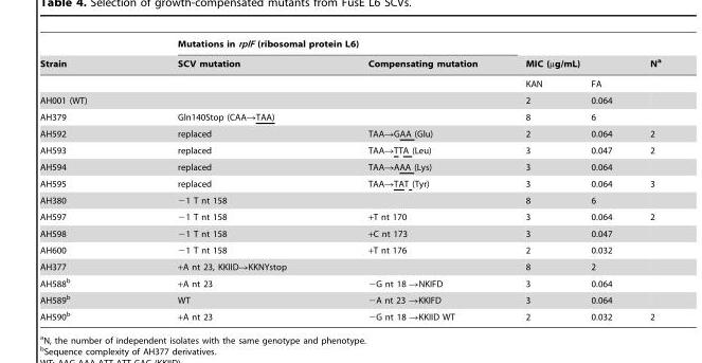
<table><thead><tr><td rowspan="2">Strain</td><td colspan="2">Mutations in rplF (ribosomal protein L6)</td><td></td><td></td><td rowspan="2">N<sup>a</sup></td></tr><tr><td>SCV mutation</td><td>Compensating mutation</td><td colspan="2">MIC (µg/mL)</td></tr></thead><tbody><tr><td></td><td></td><td></td><td>KAN</td><td>FA</td><td></td></tr><tr><td>AH001 (WT)</td><td></td><td></td><td>2</td><td>0.064</td><td></td></tr><tr><td>AH379</td><td>Gln140Stop (CAA→TAA)</td><td></td><td>8</td><td>6</td><td></td></tr><tr><td>AH592</td><td>replaced</td><td>TAA→GAA (Glu)</td><td>2</td><td>0.064</td><td>2</td></tr><tr><td>AH593</td><td>replaced</td><td>TAA→TTA (Leu)</td><td>3</td><td>0.047</td><td>2</td></tr><tr><td>AH594</td><td>replaced</td><td>TAA→AAA (Lys)</td><td>3</td><td>0.064</td><td></td></tr><tr><td>AH595</td><td>replaced</td><td>TAA→TAT (Tyr)</td><td>3</td><td>0.064</td><td>3</td></tr><tr><td>AH380</td><td>−1 T nt 158</td><td></td><td>8</td><td>6</td><td></td></tr><tr><td>AH597</td><td>−1 T nt 158</td><td>+T nt 170</td><td>3</td><td>0.064</td><td>2</td></tr><tr><td>AH598</td><td>−1 T nt 158</td><td>+C nt 173</td><td>3</td><td>0.047</td><td></td></tr><tr><td>AH600</td><td>−1 T nt 158</td><td>+T nt 176</td><td>2</td><td>0.032</td><td></td></tr><tr><td>AH377</td><td>+A nt 23, KKIID→KKNYstop</td><td></td><td>8</td><td>2</td><td></td></tr><tr><td>AH588<sup>b</sup></td><td>+A nt 23</td><td>−G nt 18 →NKIFD</td><td>3</td><td>0.064</td><td></td></tr><tr><td>AH589<sup>b</sup></td><td>WT</td><td>−A nt 23 →KKIFD</td><td>3</td><td>0.064</td><td></td></tr><tr><td>AH590<sup>b</sup></td><td>+A nt 23</td><td>−G nt 18 →KKIID WT</td><td>2</td><td>0.032</td><td>2</td></tr></tbody></table>